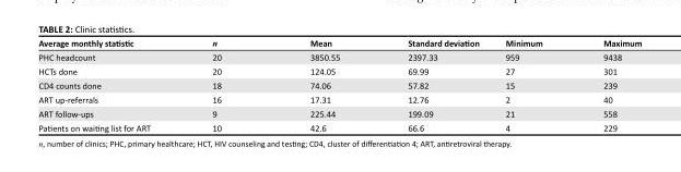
<table><thead><tr><td>Average monthly statistic</td><td>n</td><td>Mean</td><td>Standard deviation</td><td>Minimum</td><td>Maximum</td></tr></thead><tbody><tr><td>PHC headcount</td><td>20</td><td>3850.55</td><td>2397.33</td><td>959</td><td>9438</td></tr><tr><td>HCTs done</td><td>20</td><td>124.05</td><td>69.99</td><td>27</td><td>301</td></tr><tr><td>CD4 counts done</td><td>18</td><td>74.06</td><td>57.82</td><td>15</td><td>239</td></tr><tr><td>ART up-referrals</td><td>16</td><td>17.31</td><td>12.76</td><td>2</td><td>40</td></tr><tr><td>ART follow-ups</td><td>9</td><td>225.44</td><td>199.09</td><td>21</td><td>558</td></tr><tr><td>Patients on waiting list for ART</td><td>10</td><td>42.6</td><td>66.6</td><td>4</td><td>229</td></tr></tbody></table>